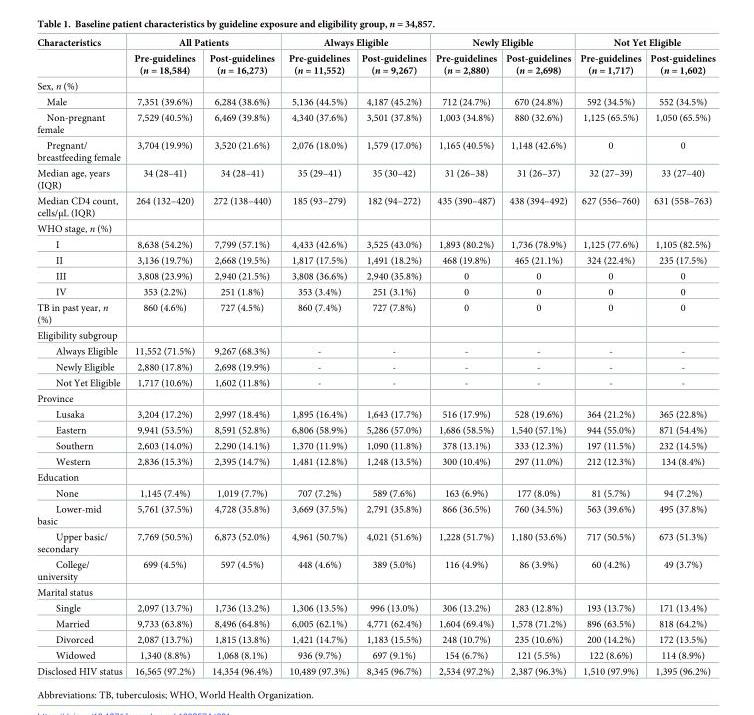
<table><thead><tr><td rowspan="2">Characteristics</td><td colspan="2">All Patients</td><td colspan="2">Always Eligible</td><td colspan="2">Newly Eligible</td><td colspan="2">Not Yet Eligible</td></tr><tr><td>Pre-guidelines (n = 18,584)</td><td>Post-guidelines (n = 16,273)</td><td>Pre-guidelines (n = 11,552)</td><td>Post-guidelines (n = 9,267)</td><td>Pre-guidelines (n = 2,880)</td><td>Post-guidelines (n = 2,698)</td><td>Pre-guidelines (n = 1,717)</td><td>Post-guidelines (n = 1,602)</td></tr></thead><tbody><tr><td colspan="9">Sex, n (%)</td></tr><tr><td>Male</td><td>7,351 (39.6%)</td><td>6,284 (38.6%)</td><td>5,136 (44.5%)</td><td>4,187 (45.2%)</td><td>712 (24.7%)</td><td>670 (24.8%)</td><td>592 (34.5%)</td><td>552 (34.5%)</td></tr><tr><td>Non-pregnant female</td><td>7,529 (40.5%)</td><td>6,469 (39.8%)</td><td>4,340 (37.6%)</td><td>3,501 (37.8%)</td><td>1,003 (34.8%)</td><td>880 (32.6%)</td><td>1,125 (65.5%)</td><td>1,050 (65.5%)</td></tr><tr><td>Pregnant/ breastfeeding female</td><td>3,704 (19.9%)</td><td>3,520 (21.6%)</td><td>2,076 (18.0%)</td><td>1,579 (17.0%)</td><td>1,165 (40.5%)</td><td>1,148 (42.6%)</td><td>0</td><td>0</td></tr><tr><td>Median age, years (IQR)</td><td>34 (28–41)</td><td>34 (28–41)</td><td>35 (29–41)</td><td>35 (30–42)</td><td>31 (26–38)</td><td>31 (26–37)</td><td>32 (27–39)</td><td>33 (27–40)</td></tr><tr><td>Median CD4 count, cells/μL (IQR)</td><td>264 (132–420)</td><td>272 (138–440)</td><td>185 (93–279)</td><td>182 (94–272)</td><td>435 (390–487)</td><td>438 (394–492)</td><td>627 (556–760)</td><td>631 (558–763)</td></tr><tr><td colspan="9">WHO stage, n (%)</td></tr><tr><td>I</td><td>8,638 (54.2%)</td><td>7,799 (57.1%)</td><td>4,433 (42.6%)</td><td>3,525 (43.0%)</td><td>1,893 (80.2%)</td><td>1,736 (78.9%)</td><td>1,125 (77.6%)</td><td>1,105 (82.5%)</td></tr><tr><td>II</td><td>3,136 (19.7%)</td><td>2,668 (19.5%)</td><td>1,817 (17.5%)</td><td>1,491 (18.2%)</td><td>468 (19.8%)</td><td>465 (21.1%)</td><td>324 (22.4%)</td><td>235 (17.5%)</td></tr><tr><td>III</td><td>3,808 (23.9%)</td><td>2,940 (21.5%)</td><td>3,808 (36.6%)</td><td>2,940 (35.8%)</td><td>0</td><td>0</td><td>0</td><td>0</td></tr><tr><td>IV</td><td>353 (2.2%)</td><td>251 (1.8%)</td><td>353 (3.4%)</td><td>251 (3.1%)</td><td>0</td><td>0</td><td>0</td><td>0</td></tr><tr><td>TB in past year, n (%)</td><td>860 (4.6%)</td><td>727 (4.5%)</td><td>860 (7.4%)</td><td>727 (7.8%)</td><td>0</td><td>0</td><td>0</td><td>0</td></tr><tr><td colspan="9">Eligibility subgroup</td></tr><tr><td>Always Eligible</td><td>11,552 (71.5%)</td><td>9,267 (68.3%)</td><td>-</td><td>-</td><td>-</td><td>-</td><td>-</td><td>-</td></tr><tr><td>Newly Eligible</td><td>2,880 (17.8%)</td><td>2,698 (19.9%)</td><td>-</td><td>-</td><td>-</td><td>-</td><td>-</td><td>-</td></tr><tr><td>Not Yet Eligible</td><td>1,717 (10.6%)</td><td>1,602 (11.8%)</td><td>-</td><td>-</td><td>-</td><td>-</td><td>-</td><td>-</td></tr><tr><td colspan="9">Province</td></tr><tr><td>Lusaka</td><td>3,204 (17.2%)</td><td>2,997 (18.4%)</td><td>1,895 (16.4%)</td><td>1,643 (17.7%)</td><td>516 (17.9%)</td><td>528 (19.6%)</td><td>364 (21.2%)</td><td>365 (22.8%)</td></tr><tr><td>Eastern</td><td>9,941 (53.5%)</td><td>8,591 (52.8%)</td><td>6,806 (58.9%)</td><td>5,286 (57.0%)</td><td>1,686 (58.5%)</td><td>1,540 (57.1%)</td><td>944 (55.0%)</td><td>871 (54.4%)</td></tr><tr><td>Southern</td><td>2,603 (14.0%)</td><td>2,290 (14.1%)</td><td>1,370 (11.9%)</td><td>1,090 (11.8%)</td><td>378 (13.1%)</td><td>333 (12.3%)</td><td>197 (11.5%)</td><td>232 (14.5%)</td></tr><tr><td>Western</td><td>2,836 (15.3%)</td><td>2,395 (14.7%)</td><td>1,481 (12.8%)</td><td>1,248 (13.5%)</td><td>300 (10.4%)</td><td>297 (11.0%)</td><td>212 (12.3%)</td><td>134 (8.4%)</td></tr><tr><td colspan="9">Education</td></tr><tr><td>None</td><td>1,145 (7.4%)</td><td>1,019 (7.7%)</td><td>707 (7.2%)</td><td>589 (7.6%)</td><td>163 (6.9%)</td><td>177 (8.0%)</td><td>81 (5.7%)</td><td>94 (7.2%)</td></tr><tr><td>Lower-mid basic</td><td>5,761 (37.5%)</td><td>4,728 (35.8%)</td><td>3,669 (37.5%)</td><td>2,791 (35.8%)</td><td>866 (36.5%)</td><td>760 (34.5%)</td><td>563 (39.6%)</td><td>495 (37.8%)</td></tr><tr><td>Upper basic/ secondary</td><td>7,769 (50.5%)</td><td>6,873 (52.0%)</td><td>4,961 (50.7%)</td><td>4,021 (51.6%)</td><td>1,228 (51.7%)</td><td>1,180 (53.6%)</td><td>717 (50.5%)</td><td>673 (51.3%)</td></tr><tr><td>College/ university</td><td>699 (4.5%)</td><td>597 (4.5%)</td><td>448 (4.6%)</td><td>389 (5.0%)</td><td>116 (4.9%)</td><td>86 (3.9%)</td><td>60 (4.2%)</td><td>49 (3.7%)</td></tr><tr><td colspan="9">Marital status</td></tr><tr><td>Single</td><td>2,097 (13.7%)</td><td>1,736 (13.2%)</td><td>1,306 (13.5%)</td><td>996 (13.0%)</td><td>306 (13.2%)</td><td>283 (12.8%)</td><td>193 (13.7%)</td><td>171 (13.4%)</td></tr><tr><td>Married</td><td>9,733 (63.8%)</td><td>8,496 (64.8%)</td><td>6,005 (62.1%)</td><td>4,771 (62.4%)</td><td>1,604 (69.4%)</td><td>1,578 (71.2%)</td><td>896 (63.5%)</td><td>818 (64.2%)</td></tr><tr><td>Divorced</td><td>2,087 (13.7%)</td><td>1,815 (13.8%)</td><td>1,421 (14.7%)</td><td>1,183 (15.5%)</td><td>248 (10.7%)</td><td>235 (10.6%)</td><td>200 (14.2%)</td><td>172 (13.5%)</td></tr><tr><td>Widowed</td><td>1,340 (8.8%)</td><td>1,068 (8.1%)</td><td>936 (9.7%)</td><td>697 (9.1%)</td><td>154 (6.7%)</td><td>121 (5.5%)</td><td>122 (8.6%)</td><td>114 (8.9%)</td></tr><tr><td>Disclosed HIV status</td><td>16,565 (97.2%)</td><td>14,354 (96.4%)</td><td>10,489 (97.3%)</td><td>8,345 (96.7%)</td><td>2,534 (97.2%)</td><td>2,387 (96.3%)</td><td>1,510 (97.9%)</td><td>1,395 (96.2%)</td></tr></tbody></table>